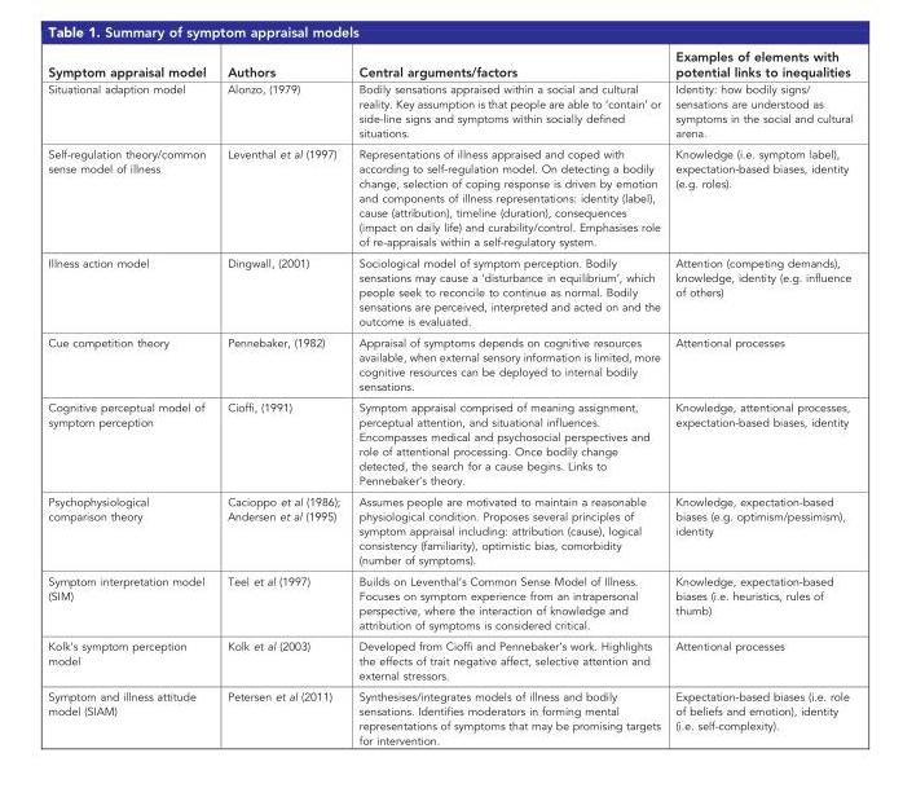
<table><thead><tr><td>Symptom appraisal model</td><td>Authors</td><td>Central arguments/factors</td><td>Examples of elements with potential links to inequalities</td></tr></thead><tbody><tr><td>Situational adaption model</td><td>Alonzo, (1979)</td><td>Bodily sensations appraised within a social and cultural reality. Key assumption is that people are able to ‘contain’ or side-line signs and symptoms within socially defined situations.</td><td>Identity: how bodily signs/ sensations are understood as symptoms in the social and cultural arena.</td></tr><tr><td>Self-regulation theory/common sense model of illness</td><td>Leventhal et al (1997)</td><td>Representations of illness appraised and coped with according to self-regulation model. On detecting a bodily change, selection of coping response is driven by emotion and components of illness representations: identity (label), cause (attribution), timeline (duration), consequences (impact on daily life) and curability/control. Emphasises role of re-appraisals within a self-regulatory system.</td><td>Knowledge (i.e. symptom label), expectation-based biases, identity (e.g. roles).</td></tr><tr><td>Illness action model</td><td>Dingwall, (2001)</td><td>Sociological model of symptom perception. Bodily sensations may cause a ‘disturbance in equilibrium’, which people seek to reconcile to continue as normal. Bodily sensations are perceived, interpreted and acted on and the outcome is evaluated.</td><td>Attention (competing demands), knowledge, identity (e.g. influence of others)</td></tr><tr><td>Cue competition theory</td><td>Pennebaker, (1982)</td><td>Appraisal of symptoms depends on cognitive resources available, when external sensory information is limited, more cognitive resources can be deployed to internal bodily sensations.</td><td>Attentional processes</td></tr><tr><td>Cognitive perceptual model of symptom perception</td><td>Cioffi, (1991)</td><td>Symptom appraisal comprised of meaning assignment, perceptual attention, and situational influences. Encompasses medical and psychosocial perspectives and role of attentional processing. Once bodily change detected, the search for a cause begins. Links to Pennebaker’s theory.</td><td>Knowledge, attentional processes, expectation-based biases, identity</td></tr><tr><td>Psychophysiological comparison theory</td><td>Cacioppo et al (1986); Andersen et al (1995)</td><td>Assumes people are motivated to maintain a reasonable physiological condition. Proposes several principles of symptom appraisal including: attribution (cause), logical consistency (familiarity), optimistic bias, comorbidity (number of symptoms).</td><td>Knowledge, expectation-based biases (e.g. optimism/pessimism), identity</td></tr><tr><td>Symptom interpretation model (SIM)</td><td>Teel et al (1997)</td><td>Builds on Leventhal’s Common Sense Model of Illness. Focuses on symptom experience from an intrapersonal perspective, where the interaction of knowledge and attribution of symptoms is considered critical.</td><td>Knowledge, expectation-based biases (i.e. heuristics, rules of thumb)</td></tr><tr><td>Kolk’s symptom perception model</td><td>Kolk et al (2003)</td><td>Developed from Cioffi and Pennebaker’s work. Highlights the effects of trait negative affect, selective attention and external stressors.</td><td>Attentional processes</td></tr><tr><td>Symptom and illness attitude model (SIAM)</td><td>Petersen et al (2011)</td><td>Synthesises/integrates models of illness and bodily sensations. Identifies moderators in forming mental representations of symptoms that may be promising targets for intervention.</td><td>Expectation-based biases (i.e. role of beliefs and emotion), identity (i.e. self-complexity).</td></tr></tbody></table>